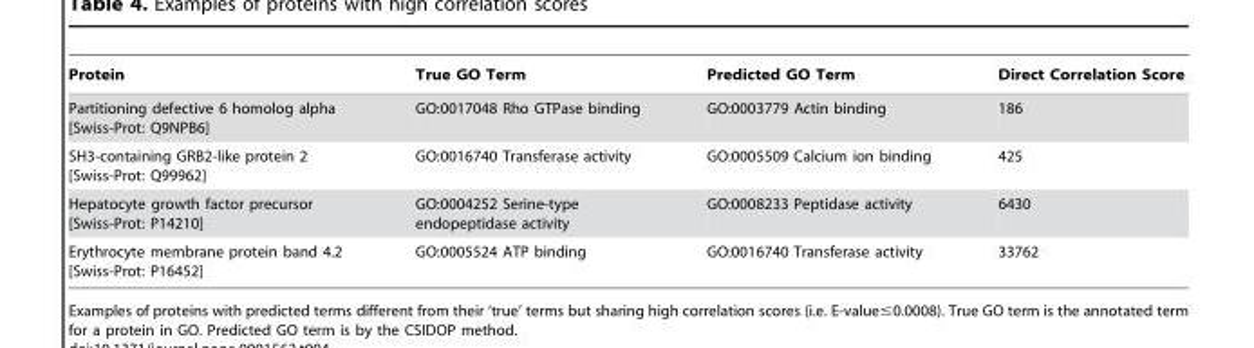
<table><thead><tr><td>Protein</td><td>True GO Term</td><td>Predicted GO Term</td><td>Direct Correlation Score</td></tr></thead><tbody><tr><td>Partitioning defective 6 homolog alpha [Swiss-Prot: Q9NPB6]</td><td>GO:0017048 Rho GTPase binding</td><td>GO:0003779 Actin binding</td><td>186</td></tr><tr><td>SH3-containing GRB2-like protein 2 [Swiss-Prot: Q99962]</td><td>GO:0016740 Transferase activity</td><td>GO:0005509 Calcium ion binding</td><td>425</td></tr><tr><td>Hepatocyte growth factor precursor [Swiss-Prot: P14210]</td><td>GO:0004252 Serine-type endopeptidase activity</td><td>GO:0008233 Peptidase activity</td><td>6430</td></tr><tr><td>Erythrocyte membrane protein band 4.2 [Swiss-Prot: P16452]</td><td>GO:0005524 ATP binding</td><td>GO:0016740 Transferase activity</td><td>33762</td></tr></tbody></table>